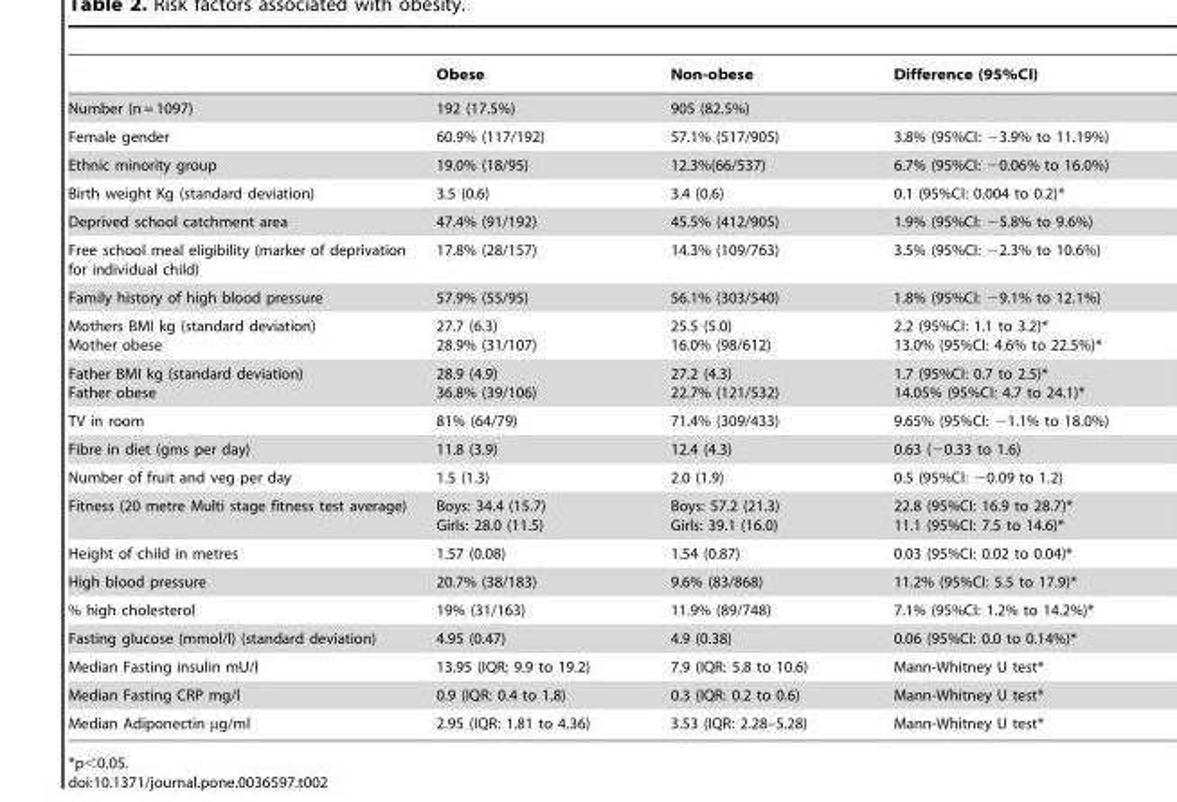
<table><thead><tr><td></td><td>Obese</td><td>Non-obese</td><td>Difference (95%CI)</td></tr></thead><tbody><tr><td>Number (n = 1097)</td><td>192 (17.5%)</td><td colspan="2">905 (82.5%)</td></tr><tr><td>Female gender</td><td>60.9% (117/192)</td><td>57.1% (517/905)</td><td>3.8% (95%CI: −3.9% to 11.19%)</td></tr><tr><td>Ethnic minority group</td><td>19.0% (18/95)</td><td>12.3%(66/537)</td><td>6.7% (95%CI: −0.06% to 16.0%)</td></tr><tr><td>Birth weight Kg (standard deviation)</td><td>3.5 (0.6)</td><td>3.4 (0.6)</td><td>0.1 (95%CI: 0.004 to 0.2)*</td></tr><tr><td>Deprived school catchment area</td><td>47.4% (91/192)</td><td>45.5% (412/905)</td><td>1.9% (95%CI: −5.8% to 9.6%)</td></tr><tr><td>Free school meal eligibility (marker of deprivation for individual child)</td><td>17.8% (28/157)</td><td>14.3% (109/763)</td><td>3.5% (95%CI: −2.3% to 10.6%)</td></tr><tr><td>Family history of high blood pressure</td><td>57.9% (55/95)</td><td>56.1% (303/540)</td><td>1.8% (95%CI: −9.1% to 12.1%)</td></tr><tr><td>Mothers BMI kg (standard deviation) Mother obese</td><td>27.7 (6.3) 28.9% (31/107)</td><td>25.5 (5.0) 16.0% (98/612)</td><td>2.2 (95%CI: 1.1 to 3.2)* 13.0% (95%CI: 4.6% to 22.5%)*</td></tr><tr><td>Father BMI kg (standard deviation) Father obese</td><td>28.9 (4.9) 36.8% (39/106)</td><td>27.2 (4.3) 22.7% (121/532)</td><td>1.7 (95%CI: 0.7 to 2.5)* 14.05% (95%CI: 4.7 to 24.1)*</td></tr><tr><td>TV in room</td><td>81% (64/79)</td><td>71.4% (309/433)</td><td>9.65% (95%CI: −1.1% to 18.0%)</td></tr><tr><td>Fibre in diet (gms per day)</td><td>11.8 (3.9)</td><td>12.4 (4.3)</td><td>0.63 (−0.33 to 1.6)</td></tr><tr><td>Number of fruit and veg per day</td><td>1.5 (1.3)</td><td>2.0 (1.9)</td><td>0.5 (95%CI: −0.09 to 1.2)</td></tr><tr><td>Fitness (20 metre Multi stage fitness test average)</td><td>Boys: 34.4 (15.7) Girls: 28.0 (11.5)</td><td>Boys: 57.2 (21.3) Girls: 39.1 (16.0)</td><td>22.8 (95%CI: 16.9 to 28.7)* 11.1 (95%CI: 7.5 to 14.6)*</td></tr><tr><td>Height of child in metres</td><td>1.57 (0.08)</td><td>1.54 (0.87)</td><td>0.03 (95%CI: 0.02 to 0.04)*</td></tr><tr><td>High blood pressure</td><td>20.7% (38/183)</td><td>9.6% (83/868)</td><td>11.2% (95%CI: 5.5 to 17.9)*</td></tr><tr><td>% high cholesterol</td><td>19% (31/163)</td><td>11.9% (89/748)</td><td>7.1% (95%CI: 1.2% to 14.2%)*</td></tr><tr><td>Fasting glucose (mmol/l) (standard deviation)</td><td>4.95 (0.47)</td><td>4.9 (0.38)</td><td>0.06 (95%CI: 0.0 to 0.14%)*</td></tr><tr><td>Median Fasting insulin mU/l</td><td>13.95 (IQR: 9.9 to 19.2)</td><td>7.9 (IQR: 5.8 to 10.6)</td><td>Mann-Whitney U test*</td></tr><tr><td>Median Fasting CRP mg/l</td><td>0.9 (IQR: 0.4 to 1.8)</td><td>0.3 (IQR: 0.2 to 0.6)</td><td>Mann-Whitney U test*</td></tr><tr><td>Median Adiponectin µg/ml</td><td>2.95 (IQR: 1.81 to 4.36)</td><td>3.53 (IQR: 2.28–5.28)</td><td>Mann-Whitney U test*</td></tr></tbody></table>